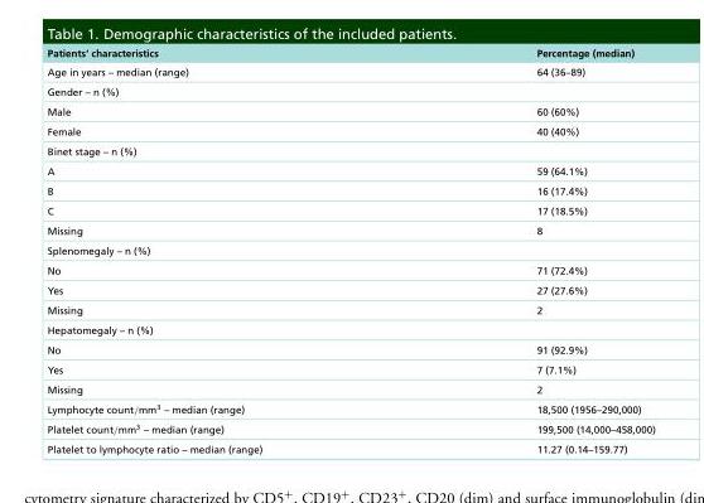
<table><tbody><tr><td>Patients’ characteristics</td><td>Percentage (median)</td></tr><tr><td>Age in years – median (range)</td><td>64 (36–89)</td></tr><tr><td colspan="2">Gender – n (%)</td></tr><tr><td>Male</td><td>60 (60%)</td></tr><tr><td>Female</td><td>40 (40%)</td></tr><tr><td colspan="2">Binet stage – n (%)</td></tr><tr><td>A</td><td>59 (64.1%)</td></tr><tr><td>B</td><td>16 (17.4%)</td></tr><tr><td>C</td><td>17 (18.5%)</td></tr><tr><td>Missing</td><td>8</td></tr><tr><td colspan="2">Splenomegaly – n (%)</td></tr><tr><td>No</td><td>71 (72.4%)</td></tr><tr><td>Yes</td><td>27 (27.6%)</td></tr><tr><td>Missing</td><td>2</td></tr><tr><td colspan="2">Hepatomegaly – n (%)</td></tr><tr><td>No</td><td>91 (92.9%)</td></tr><tr><td>Yes</td><td>7 (7.1%)</td></tr><tr><td>Missing</td><td>2</td></tr><tr><td>Lymphocyte count/mm<sup>3</sup> – median (range)</td><td>18,500 (1956–290,000)</td></tr><tr><td>Platelet count/mm<sup>3</sup> – median (range)</td><td>199,500 (14,000–458,000)</td></tr><tr><td>Platelet to lymphocyte ratio – median (range)</td><td>11.27 (0.14–159.77)</td></tr></tbody></table>